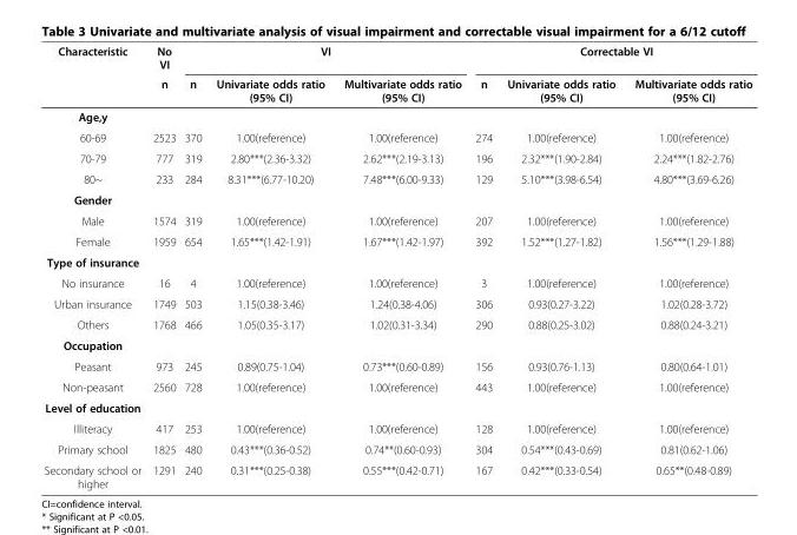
<table><thead><tr><td rowspan="2">Characteristic</td><td rowspan="2">No VI n</td><td colspan="3">VI</td><td colspan="3">Correctable VI</td></tr><tr><td>n</td><td>Univariate odds ratio (95% CI)</td><td>Multivariate odds ratio (95% CI)</td><td>n</td><td>Univariate odds ratio (95% CI)</td><td>Multivariate odds ratio (95% CI)</td></tr></thead><tbody><tr><td colspan="8">Age,y</td></tr><tr><td>60-69</td><td>2523</td><td>370</td><td>1.00(reference)</td><td>1.00(reference)</td><td>274</td><td>1.00(reference)</td><td>1.00(reference)</td></tr><tr><td>70-79</td><td>777</td><td>319</td><td>2.80***(2.36-3.32)</td><td>2.62***(2.19-3.13)</td><td>196</td><td>2.32***(1.90-2.84)</td><td>2.24***(1.82-2.76)</td></tr><tr><td>80~</td><td>233</td><td>284</td><td>8.31***(6.77-10.20)</td><td>7.48***(6.00-9.33)</td><td>129</td><td>5.10***(3.98-6.54)</td><td>4.80***(3.69-6.26)</td></tr><tr><td colspan="8">Gender</td></tr><tr><td>Male</td><td>1574</td><td>319</td><td>1.00(reference)</td><td>1.00(reference)</td><td>207</td><td>1.00(reference)</td><td>1.00(reference)</td></tr><tr><td>Female</td><td>1959</td><td>654</td><td>1.65***(1.42-1.91)</td><td>1.67***(1.42-1.97)</td><td>392</td><td>1.52***(1.27-1.82)</td><td>1.56***(1.29-1.88)</td></tr><tr><td colspan="8">Type of insurance</td></tr><tr><td>No insurance</td><td>16</td><td>4</td><td>1.00(reference)</td><td>1.00(reference)</td><td>3</td><td>1.00(reference)</td><td>1.00(reference)</td></tr><tr><td>Urban insurance</td><td>1749</td><td>503</td><td>1.15(0.38-3.46)</td><td>1.24(0.38-4.06)</td><td>306</td><td>0.93(0.27-3.22)</td><td>1.02(0.28-3.72)</td></tr><tr><td>Others</td><td>1768</td><td>466</td><td>1.05(0.35-3.17)</td><td>1.02(0.31-3.34)</td><td>290</td><td>0.88(0.25-3.02)</td><td>0.88(0.24-3.21)</td></tr><tr><td colspan="8">Occupation</td></tr><tr><td>Peasant</td><td>973</td><td>245</td><td>0.89(0.75-1.04)</td><td>0.73***(0.60-0.89)</td><td>156</td><td>0.93(0.76-1.13)</td><td>0.80(0.64-1.01)</td></tr><tr><td>Non-peasant</td><td>2560</td><td>728</td><td>1.00(reference)</td><td>1.00(reference)</td><td>443</td><td>1.00(reference)</td><td>1.00(reference)</td></tr><tr><td colspan="8">Level of education</td></tr><tr><td>Illiteracy</td><td>417</td><td>253</td><td>1.00(reference)</td><td>1.00(reference)</td><td>128</td><td>1.00(reference)</td><td>1.00(reference)</td></tr><tr><td>Primary school</td><td>1825</td><td>480</td><td>0.43***(0.36-0.52)</td><td>0.74**(0.60-0.93)</td><td>304</td><td>0.54***(0.43-0.69)</td><td>0.81(0.62-1.06)</td></tr><tr><td>Secondary school or higher</td><td>1291</td><td>240</td><td>0.31***(0.25-0.38)</td><td>0.55***(0.42-0.71)</td><td>167</td><td>0.42***(0.33-0.54)</td><td>0.65**(0.48-0.89)</td></tr></tbody></table>